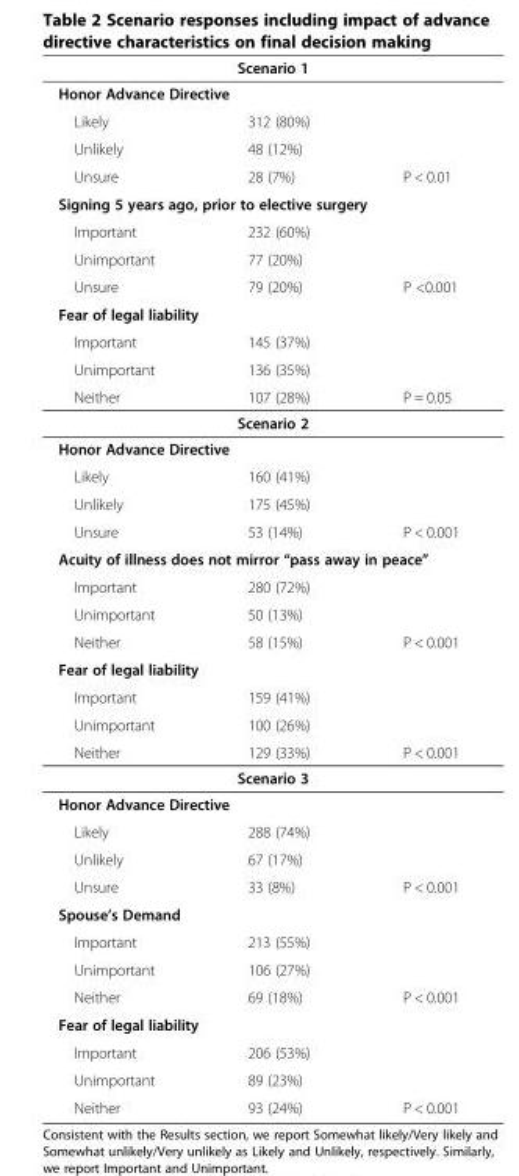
<table><thead><tr><td rowspan="2" colspan="3">Scenario 1 Honor Advance Directive</td></tr><tr></tr><tr><td>Likely</td><td>312 (80%)</td><td></td></tr></thead><tbody><tr><td>Unlikely</td><td>48 (12%)</td><td></td></tr><tr><td>Unsure</td><td>28 (7%)</td><td>P &lt; 0.01</td></tr><tr><td colspan="3">Signing 5 years ago, prior to elective surgery</td></tr><tr><td>Important</td><td>232 (60%)</td><td></td></tr><tr><td>Unimportant</td><td>77 (20%)</td><td></td></tr><tr><td>Unsure</td><td>79 (20%)</td><td>P &lt;0.001</td></tr><tr><td colspan="3">Fear of legal liability</td></tr><tr><td>Important</td><td>145 (37%)</td><td></td></tr><tr><td>Unimportant</td><td>136 (35%)</td><td></td></tr><tr><td>Neither</td><td>107 (28%)</td><td>P = 0.05</td></tr><tr><td colspan="3">Scenario 2</td></tr><tr><td colspan="3">Honor Advance Directive</td></tr><tr><td>Likely</td><td>160 (41%)</td><td></td></tr><tr><td>Unlikely</td><td>175 (45%)</td><td></td></tr><tr><td>Unsure</td><td>53 (14%)</td><td>P &lt; 0.001</td></tr><tr><td colspan="3">Acuity of illness does not mirror “pass away in peace”</td></tr><tr><td>Important</td><td>280 (72%)</td><td></td></tr><tr><td>Unimportant</td><td>50 (13%)</td><td></td></tr><tr><td>Neither</td><td>58 (15%)</td><td>P &lt; 0.001</td></tr><tr><td colspan="3">Fear of legal liability</td></tr><tr><td>Important</td><td>159 (41%)</td><td></td></tr><tr><td>Unimportant</td><td>100 (26%)</td><td></td></tr><tr><td>Neither</td><td>129 (33%)</td><td>P &lt; 0.001</td></tr><tr><td colspan="3">Scenario 3</td></tr><tr><td colspan="3">Honor Advance Directive</td></tr><tr><td>Likely</td><td>288 (74%)</td><td></td></tr><tr><td>Unlikely</td><td>67 (17%)</td><td></td></tr><tr><td>Unsure</td><td>33 (8%)</td><td>P &lt; 0.001</td></tr><tr><td colspan="3">Spouse’s Demand</td></tr><tr><td>Important</td><td>213 (55%)</td><td></td></tr><tr><td>Unimportant</td><td>106 (27%)</td><td></td></tr><tr><td>Neither</td><td>69 (18%)</td><td>P &lt; 0.001</td></tr><tr><td colspan="3">Fear of legal liability</td></tr><tr><td>Important</td><td>206 (53%)</td><td></td></tr><tr><td>Unimportant</td><td>89 (23%)</td><td></td></tr><tr><td>Neither</td><td>93 (24%)</td><td>P &lt; 0.001</td></tr></tbody></table>